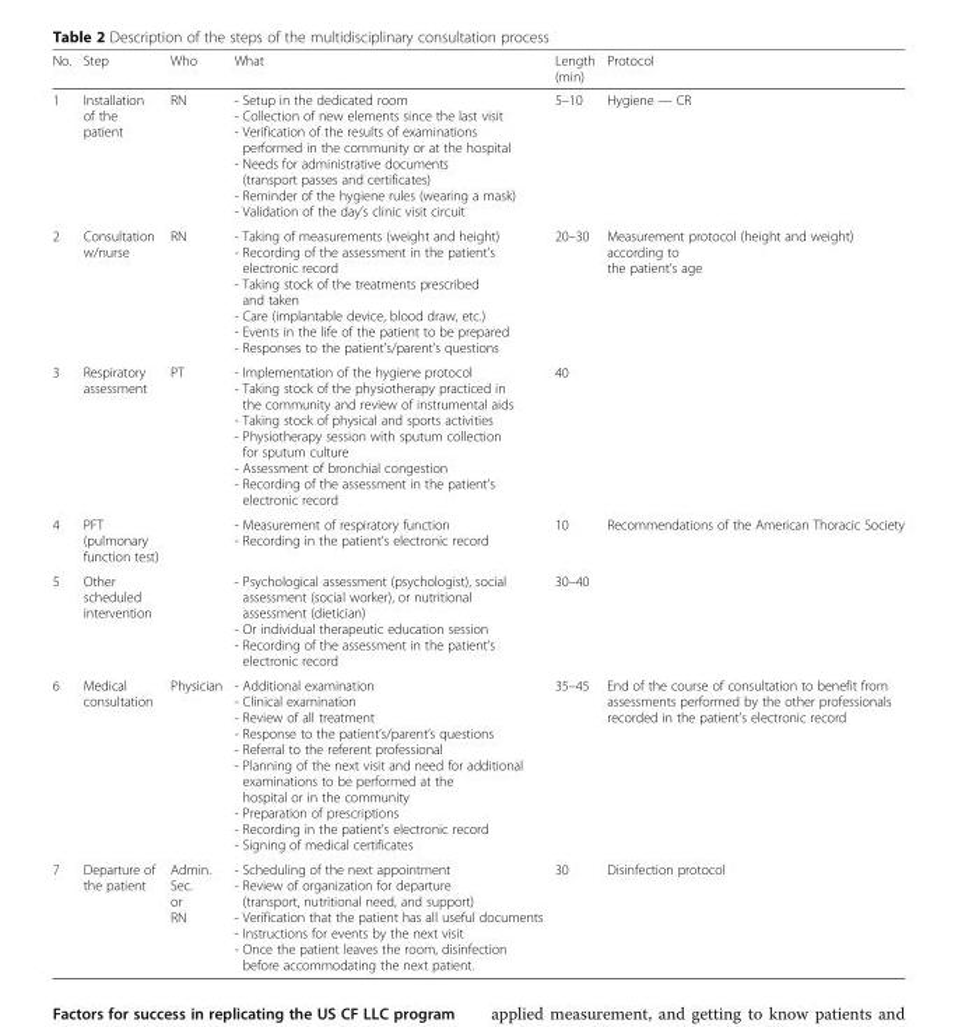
<table><thead><tr><td>No.</td><td>Step</td><td>Who</td><td>What</td><td>Length (min)</td><td>Protocol</td></tr></thead><tbody><tr><td>1</td><td>Installation of the patient</td><td>RN</td><td>- Setup in the dedicated room - Collection of new elements since the last visit - Verification of the results of examinations performed in the community or at the hospital - Needs for administrative documents (transport passes and certificates) - Reminder of the hygiene rules (wearing a mask) - Validation of the day’s clinic visit circuit</td><td>5–10</td><td>Hygiene — CR</td></tr><tr><td>2</td><td>Consultation w/nurse</td><td>RN</td><td>- Taking of measurements (weight and height) - Recording of the assessment in the patient’s electronic record - Taking stock of the treatments prescribed and taken - Care (implantable device, blood draw, etc.) - Events in the life of the patient to be prepared - Responses to the patient’s/parent’s questions</td><td>20–30</td><td>Measurement protocol (height and weight) according to the patient’s age</td></tr><tr><td>3</td><td>Respiratory assessment</td><td>PT</td><td>- Implementation of the hygiene protocol - Taking stock of the physiotherapy practiced in the community and review of instrumental aids - Taking stock of physical and sports activities - Physiotherapy session with sputum collection for sputum culture - Assessment of bronchial congestion - Recording of the assessment in the patient’s electronic record</td><td>40</td><td></td></tr><tr><td>4</td><td>PFT (pulmonary function test)</td><td></td><td>- Measurement of respiratory function - Recording in the patient’s electronic record</td><td>10</td><td>Recommendations of the American Thoracic Society</td></tr><tr><td>5</td><td>Other scheduled intervention</td><td></td><td>- Psychological assessment (psychologist), social assessment (social worker), or nutritional assessment (dietician) - Or individual therapeutic education session - Recording of the assessment in the patient’s electronic record</td><td>30–40</td><td></td></tr><tr><td>6</td><td>Medical consultation</td><td>Physician</td><td>- Additional examination - Clinical examination - Review of all treatment - Response to the patient’s/parent’s questions - Referral to the referent professional - Planning of the next visit and need for additional examinations to be performed at the hospital or in the community - Preparation of prescriptions - Recording in the patient’s electronic record - Signing of medical certificates</td><td>35–45</td><td>End of the course of consultation to benefit from assessments performed by the other professionals recorded in the patient’s electronic record</td></tr><tr><td>7</td><td>Departure of the patient</td><td>Admin. Sec. or RN</td><td>- Scheduling of the next appointment - Review of organization for departure (transport, nutritional need, and support) - Verification that the patient has all useful documents - Instructions for events by the next visit - Once the patient leaves the room, disinfection before accommodating the next patient.</td><td>30</td><td>Disinfection protocol</td></tr></tbody></table>